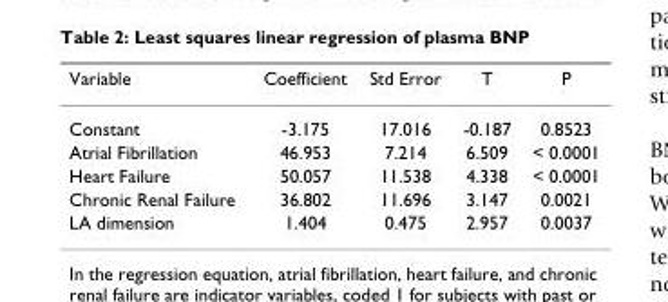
<table><thead><tr><td>Variable</td><td>Coefficient</td><td>Std Error</td><td>T</td><td>P</td></tr></thead><tbody><tr><td>Constant</td><td>-3.175</td><td>17.016</td><td>-0.187</td><td>0.8523</td></tr><tr><td>Atrial Fibrillation</td><td>46.953</td><td>7.214</td><td>6.509</td><td>&lt; 0.0001</td></tr><tr><td>Heart Failure</td><td>50.057</td><td>11.538</td><td>4.338</td><td>&lt; 0.0001</td></tr><tr><td>Chronic Renal Failure</td><td>36.802</td><td>11.696</td><td>3.147</td><td>0.0021</td></tr><tr><td>LA dimension</td><td>1.404</td><td>0.475</td><td>2.957</td><td>0.0037</td></tr></tbody></table>